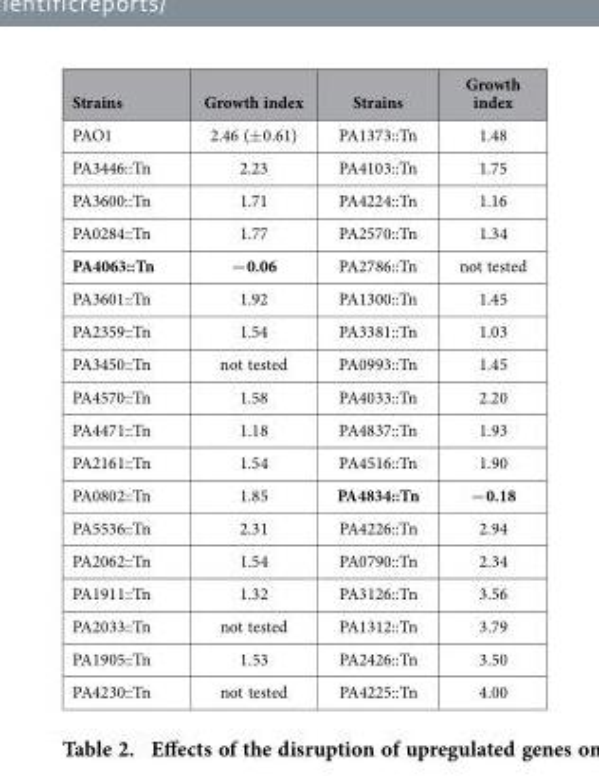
<table><thead><tr><td>Strains</td><td>Growth index</td><td>Strains</td><td>Growth index</td></tr></thead><tbody><tr><td>PAO1</td><td>2.46 (± 0.61)</td><td>PA1373::Tn</td><td>1.48</td></tr><tr><td>PA3446::Tn</td><td>2.23</td><td>PA4103::Tn</td><td>1.75</td></tr><tr><td>PA3600::Tn</td><td>1.71</td><td>PA4224::Tn</td><td>1.16</td></tr><tr><td>PA0284::Tn</td><td>1.77</td><td>PA2570::Tn</td><td>1.34</td></tr><tr><td>PA4063::Tn</td><td>− 0.06</td><td>PA2786::Tn</td><td>not tested</td></tr><tr><td>PA3601::Tn</td><td>1.92</td><td>PA1300::Tn</td><td>1.45</td></tr><tr><td>PA2359::Tn</td><td>1.54</td><td>PA3381::Tn</td><td>1.03</td></tr><tr><td>PA3450::Tn</td><td>not tested</td><td>PA0993::Tn</td><td>1.45</td></tr><tr><td>PA4570::Tn</td><td>1.58</td><td>PA4033::Tn</td><td>2.20</td></tr><tr><td>PA4471::Tn</td><td>1.18</td><td>PA4837::Tn</td><td>1.93</td></tr><tr><td>PA2161::Tn</td><td>1.54</td><td>PA4516::Tn</td><td>1.90</td></tr><tr><td>PA0802::Tn</td><td>1.85</td><td>PA4834::Tn</td><td>− 0.18</td></tr><tr><td>PA5536::Tn</td><td>2.31</td><td>PA4226::Tn</td><td>2.94</td></tr><tr><td>PA2062::Tn</td><td>1.54</td><td>PA0790::Tn</td><td>2.34</td></tr><tr><td>PA1911::Tn</td><td>1.32</td><td>PA3126::Tn</td><td>3.56</td></tr><tr><td>PA2033::Tn</td><td>not tested</td><td>PA1312::Tn</td><td>3.79</td></tr><tr><td>PA1905::Tn</td><td>1.53</td><td>PA2426::Tn</td><td>3.50</td></tr><tr><td>PA4230::Tn</td><td>not tested</td><td>PA4225::Tn</td><td>4.00</td></tr></tbody></table>